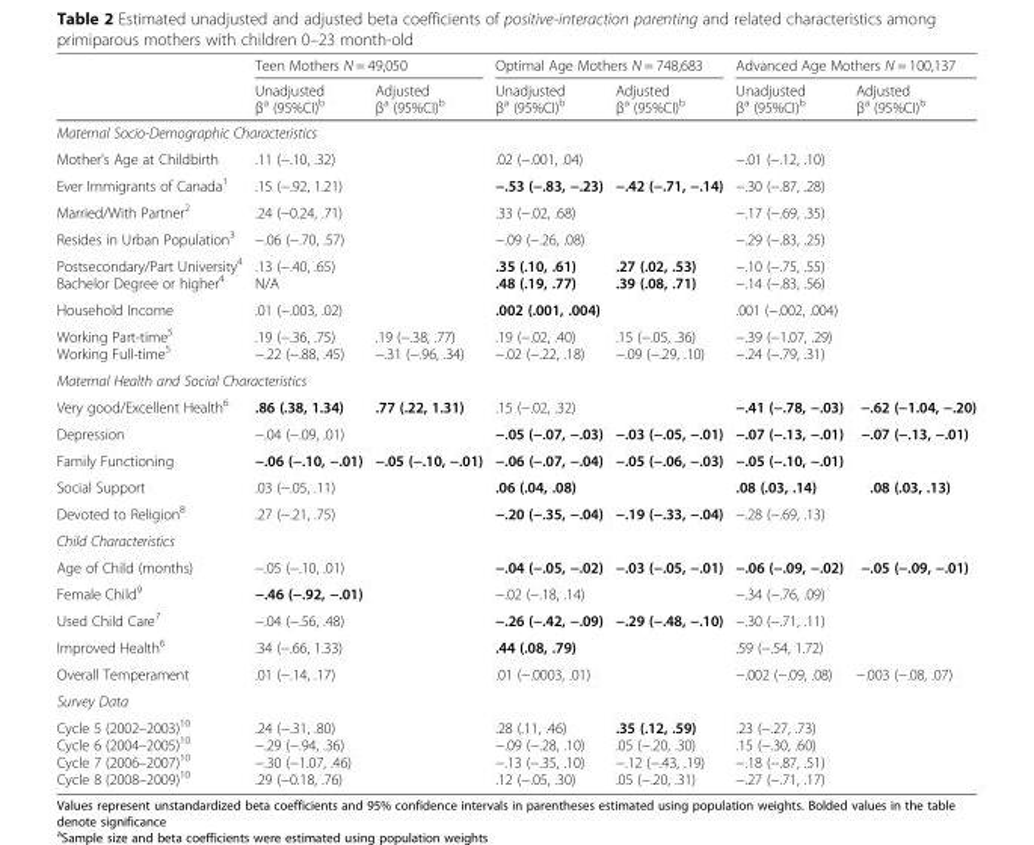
<table><thead><tr><td rowspan="2"></td><td colspan="2">Teen Mothers N = 49,050</td><td colspan="2">Optimal Age Mothers N = 748,683</td><td colspan="2">Advanced Age Mothers N = 100,137</td></tr><tr><td>Unadjusted β<sup>a</sup> (95%CI)<sup>b</sup></td><td>Adjusted β<sup>a</sup> (95%CI)<sup>b</sup></td><td>Unadjusted β<sup>a</sup> (95%CI)<sup>b</sup></td><td>Adjusted β<sup>a</sup> (95%CI)<sup>b</sup></td><td>Unadjusted β<sup>a</sup> (95%CI)<sup>b</sup></td><td>Adjusted β<sup>a</sup> (95%CI)<sup>b</sup></td></tr></thead><tbody><tr><td colspan="7">Maternal Socio-Demographic Characteristics</td></tr><tr><td>Mother’s Age at Childbirth</td><td>.11 (−.10, .32)</td><td></td><td>.02 (−.001, .04)</td><td></td><td>−.01 (−.12, .10)</td><td></td></tr><tr><td>Ever Immigrants of Canada<sup>1</sup></td><td>.15 (−.92, 1.21)</td><td></td><td>−.53 (−.83, −.23)</td><td>−.42 (−.71, −.14)</td><td>−.30 (−.87, .28)</td><td></td></tr><tr><td>Married/With Partner<sup>2</sup></td><td>.24 (−0.24, .71)</td><td></td><td>.33 (−.02, .68)</td><td></td><td>−.17 (−.69, .35)</td><td></td></tr><tr><td>Resides in Urban Population<sup>3</sup></td><td>−.06 (−.70, .57)</td><td></td><td>−.09 (−.26, .08)</td><td></td><td>−.29 (−.83, .25)</td><td></td></tr><tr><td>Postsecondary/Part University<sup>4</sup> Bachelor Degree or higher<sup>4</sup></td><td>.13 (−.40, .65) N/A</td><td></td><td>.35 (.10, .61) .48 (.19, .77)</td><td>.27 (.02, .53) .39 (.08, .71)</td><td>−.10 (−.75, .55) −.14 (−.83, .56)</td><td></td></tr><tr><td>Household Income</td><td>.01 (−.003, .02)</td><td></td><td>.002 (.001, .004)</td><td></td><td>.001 (−.002, .004)</td><td></td></tr><tr><td>Working Part-time<sup>5</sup> Working Full-time<sup>5</sup></td><td>.19 (−.36, .75) −.22 (−.88, .45)</td><td>.19 (−.38, .77) −.31 (−.96, .34)</td><td>.19 (−.02, .40) −.02 (−.22, .18)</td><td>.15 (−.05, .36) −.09 (−.29, .10)</td><td>−.39 (−1.07, .29) −.24 (−.79, .31)</td><td></td></tr><tr><td colspan="7">Maternal Health and Social Characteristics</td></tr><tr><td>Very good/Excellent Health<sup>6</sup></td><td>.86 (.38, 1.34)</td><td>.77 (.22, 1.31)</td><td>.15 (−.02, .32)</td><td></td><td>−.41 (−.78, −.03)</td><td>−.62 (−1.04, −.20)</td></tr><tr><td>Depression</td><td>−.04 (−.09, .01)</td><td></td><td>−.05 (−.07, −.03)</td><td>−.03 (−.05, −.01)</td><td>−.07 (−.13, −.01)</td><td>−.07 (−.13, −.01)</td></tr><tr><td>Family Functioning</td><td>−.06 (−.10, −.01)</td><td>−.05 (−.10, −.01)</td><td>−.06 (−.07, −.04)</td><td>−.05 (−.06, −.03)</td><td>−.05 (−.10, −.01)</td><td></td></tr><tr><td>Social Support</td><td>.03 (−.05, .11)</td><td></td><td>.06 (.04, .08)</td><td></td><td>.08 (.03, .14)</td><td>.08 (.03, .13)</td></tr><tr><td>Devoted to Religion<sup>8</sup></td><td>.27 (−.21, .75)</td><td></td><td>−.20 (−.35, −.04)</td><td>−.19 (−.33, −.04)</td><td>−.28 (−.69, .13)</td><td></td></tr><tr><td colspan="7">Child Characteristics</td></tr><tr><td>Age of Child (months)</td><td>−.05 (−.10, .01)</td><td></td><td>−.04 (−.05, −.02)</td><td>−.03 (−.05, −.01)</td><td>−.06 (−.09, −.02)</td><td>−.05 (−.09, −.01)</td></tr><tr><td>Female Child<sup>9</sup></td><td>−.46 (−.92, −.01)</td><td></td><td>−.02 (−.18, .14)</td><td></td><td>−.34 (−.76, .09)</td><td></td></tr><tr><td>Used Child Care<sup>7</sup></td><td>−.04 (−.56, .48)</td><td></td><td>−.26 (−.42, −.09)</td><td>−.29 (−.48, −.10)</td><td>−.30 (−.71, .11)</td><td></td></tr><tr><td>Improved Health<sup>6</sup></td><td>.34 (−.66, 1.33)</td><td></td><td>.44 (.08, .79)</td><td></td><td>.59 (−.54, 1.72)</td><td></td></tr><tr><td>Overall Temperament</td><td>.01 (−.14, .17)</td><td></td><td>.01 (−.0003, .01)</td><td></td><td>−.002 (−.09, .08)</td><td>−.003 (−.08, .07)</td></tr><tr><td colspan="7">Survey Data</td></tr><tr><td>Cycle 5 (2002–2003)<sup>10</sup> Cycle 6 (2004–2005)<sup>10</sup> Cycle 7 (2006–2007)<sup>10</sup> Cycle 8 (2008–2009)<sup>10</sup></td><td>.24 (−.31, .80) −.29 (−.94, .36) −.30 (−1.07, .46) .29 (−0.18, .76)</td><td></td><td>.28 (.11, .46) −.09 (−.28, .10) −.13 (−.35, .10) .12 (−.05, .30)</td><td>.35 (.12, .59) .05 (−.20, .30) −.12 (−.43, .19) .05 (−.20, .31)</td><td>.23 (−.27, .73) .15 (−.30, .60) −.18 (−.87, .51) −.27 (−.71, .17)</td><td></td></tr></tbody></table>